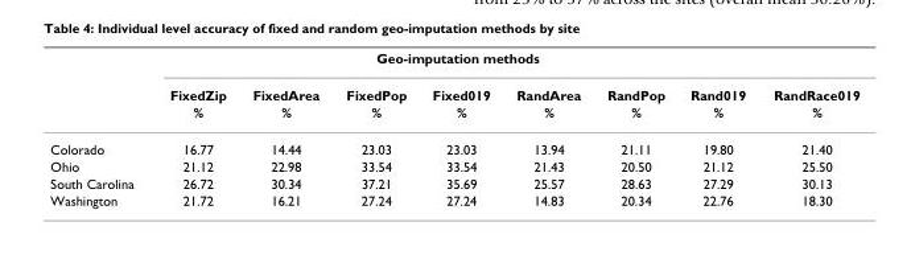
<table><thead><tr><td rowspan="3"></td><td colspan="7">Geo-imputation methods</td><td rowspan="3">RandRace019 %</td></tr><tr><td rowspan="2">FixedZip %</td><td rowspan="2">FixedArea %</td><td rowspan="2">FixedPop %</td><td rowspan="2">Fixed019 %</td><td rowspan="2">RandArea %</td><td rowspan="2">RandPop %</td><td rowspan="2">Rand019 %</td></tr><tr></tr></thead><tbody><tr><td>Colorado</td><td>16.77</td><td>14.44</td><td>23.03</td><td>23.03</td><td>13.94</td><td>21.11</td><td>19.80</td><td>21.40</td></tr><tr><td>Ohio</td><td>21.12</td><td>22.98</td><td>33.54</td><td>33.54</td><td>21.43</td><td>20.50</td><td>21.12</td><td>25.50</td></tr><tr><td>South Carolina</td><td>26.72</td><td>30.34</td><td>37.21</td><td>35.69</td><td>25.57</td><td>28.63</td><td>27.29</td><td>30.13</td></tr><tr><td>Washington</td><td>21.72</td><td>16.21</td><td>27.24</td><td>27.24</td><td>14.83</td><td>20.34</td><td>22.76</td><td>18.30</td></tr></tbody></table>